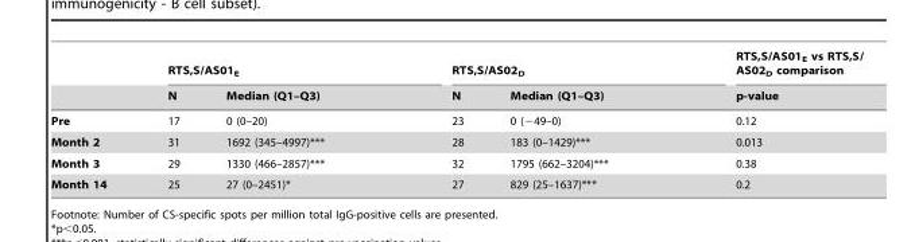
<table><thead><tr><td rowspan="2"></td><td colspan="2">RTS,S/AS01<sub>E</sub></td><td colspan="2">RTS,S/AS02<sub>D</sub></td><td rowspan="2">RTS,S/AS01<sub>E</sub> vs RTS,S/ AS02<sub>D</sub> comparison p-value</td></tr><tr><td>N</td><td>Median (Q1–Q3)</td><td>N</td><td>Median (Q1–Q3)</td></tr></thead><tbody><tr><td>Pre</td><td>17</td><td>0 (0–20)</td><td>23</td><td>0 (−49–0)</td><td>0.12</td></tr><tr><td>Month 2</td><td>31</td><td>1692 (345–4997)***</td><td>28</td><td>183 (0–1429)***</td><td>0.013</td></tr><tr><td>Month 3</td><td>29</td><td>1330 (466–2857)***</td><td>32</td><td>1795 (662–3204)***</td><td>0.38</td></tr><tr><td>Month 14</td><td>25</td><td>27 (0–2451)*</td><td>27</td><td>829 (25–1637)***</td><td>0.2</td></tr></tbody></table>